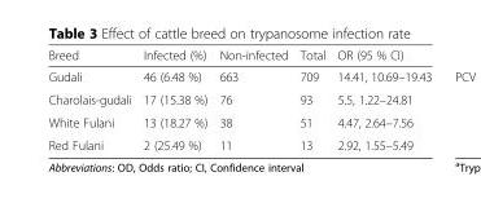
<table><thead><tr><td>Breed</td><td>Infected (%)</td><td>Non-infected</td><td>Total</td><td>OR (95 % CI)</td></tr></thead><tbody><tr><td>Gudali</td><td>46 (6.48 %)</td><td>663</td><td>709</td><td>14.41, 10.69–19.43</td></tr><tr><td>Charolais-gudali</td><td>17 (15.38 %)</td><td>76</td><td>93</td><td>5.5, 1.22–24.81</td></tr><tr><td>White Fulani</td><td>13 (18.27 %)</td><td>38</td><td>51</td><td>4.47, 2.64–7.56</td></tr><tr><td>Red Fulani</td><td>2 (25.49 %)</td><td>11</td><td>13</td><td>2.92, 1.55–5.49</td></tr></tbody></table>